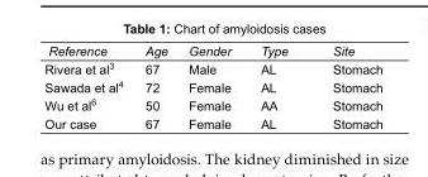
<table><tbody><tr><td>Reference</td><td>Age</td><td>Gender</td><td>Type</td><td>Site</td></tr><tr><td>Rivera et al<sup>3</sup></td><td>67</td><td>Male</td><td>AL</td><td>Stomach</td></tr><tr><td>Sawada et al<sup>4</sup></td><td>72</td><td>Female</td><td>AL</td><td>Stomach</td></tr><tr><td>Wu et al<sup>6</sup></td><td>50</td><td>Female</td><td>AA</td><td>Stomach</td></tr><tr><td>Our case</td><td>67</td><td>Female</td><td>AL</td><td>Stomach</td></tr></tbody></table>